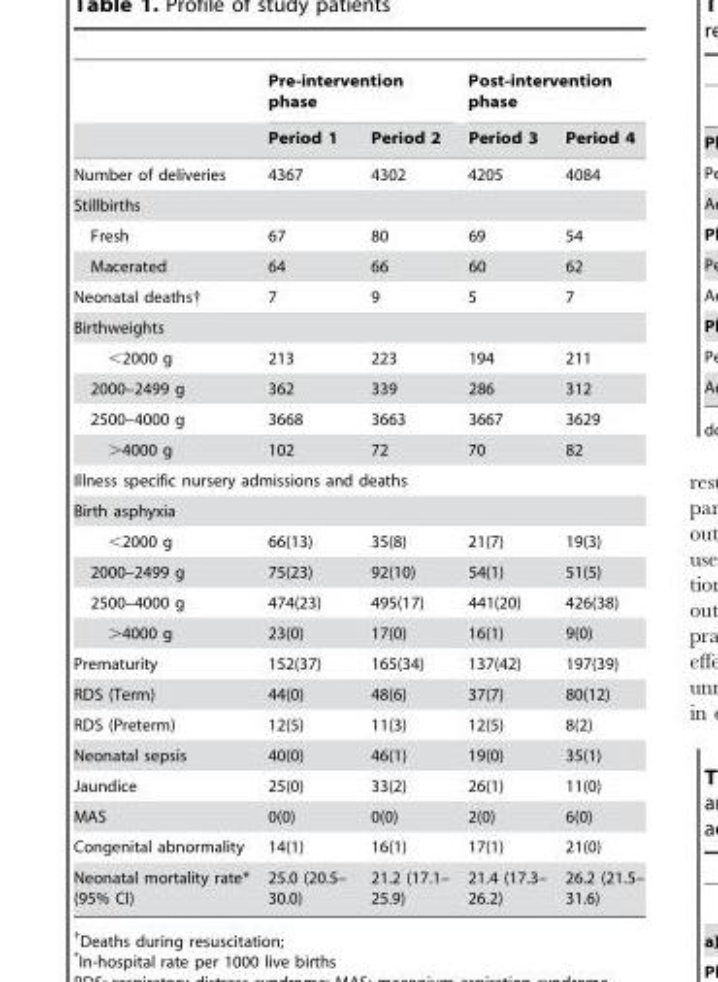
<table><thead><tr><td rowspan="2"></td><td colspan="2">Pre-intervention phase</td><td colspan="2">Post-intervention phase</td></tr><tr><td>Period 1</td><td>Period 2</td><td>Period 3</td><td>Period 4</td></tr></thead><tbody><tr><td>Number of deliveries</td><td>4367</td><td>4302</td><td>4205</td><td>4084</td></tr><tr><td colspan="5">Stillbirths</td></tr><tr><td>Fresh</td><td>67</td><td>80</td><td>69</td><td>54</td></tr><tr><td>Macerated</td><td>64</td><td>66</td><td>60</td><td>62</td></tr><tr><td>Neonatal deaths†</td><td>7</td><td>9</td><td>5</td><td>7</td></tr><tr><td colspan="5">Birthweights</td></tr><tr><td>&lt;2000 g</td><td>213</td><td>223</td><td>194</td><td>211</td></tr><tr><td>2000–2499 g</td><td>362</td><td>339</td><td>286</td><td>312</td></tr><tr><td>2500–4000 g</td><td>3668</td><td>3663</td><td>3667</td><td>3629</td></tr><tr><td>&gt;4000 g</td><td>102</td><td>72</td><td>70</td><td>82</td></tr><tr><td colspan="5">Illness specific nursery admissions and deaths</td></tr><tr><td colspan="5">Birth asphyxia</td></tr><tr><td>&lt;2000 g</td><td>66(13)</td><td>35(8)</td><td>21(7)</td><td>19(3)</td></tr><tr><td>2000–2499 g</td><td>75(23)</td><td>92(10)</td><td>54(1)</td><td>51(5)</td></tr><tr><td>2500–4000 g</td><td>474(23)</td><td>495(17)</td><td>441(20)</td><td>426(38)</td></tr><tr><td>&gt;4000 g</td><td>23(0)</td><td>17(0)</td><td>16(1)</td><td>9(0)</td></tr><tr><td>Prematurity</td><td>152(37)</td><td>165(34)</td><td>137(42)</td><td>197(39)</td></tr><tr><td>RDS (Term)</td><td>44(0)</td><td>48(6)</td><td>37(7)</td><td>80(12)</td></tr><tr><td>RDS (Preterm)</td><td>12(5)</td><td>11(3)</td><td>12(5)</td><td>8(2)</td></tr><tr><td>Neonatal sepsis</td><td>40(0)</td><td>46(1)</td><td>19(0)</td><td>35(1)</td></tr><tr><td>Jaundice</td><td>25(0)</td><td>33(2)</td><td>26(1)</td><td>11(0)</td></tr><tr><td>MAS</td><td>0(0)</td><td>0(0)</td><td>2(0)</td><td>6(0)</td></tr><tr><td>Congenital abnormality</td><td>14(1)</td><td>16(1)</td><td>17(1)</td><td>21(0)</td></tr><tr><td>Neonatal mortality rate* (95% CI)</td><td>25.0 (20.5– 30.0)</td><td>21.2 (17.1– 25.9)</td><td>21.4 (17.3– 26.2)</td><td>26.2 (21.5– 31.6)</td></tr></tbody></table>